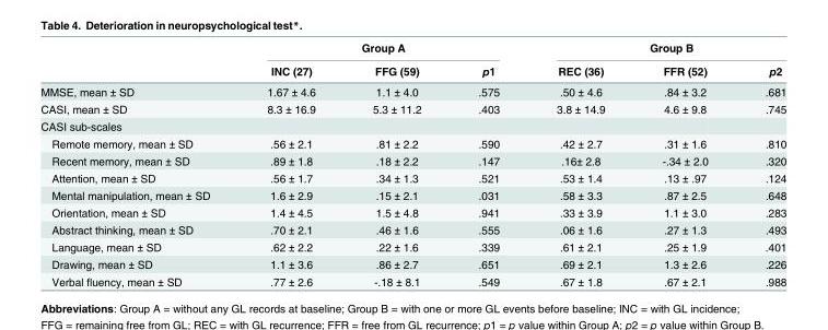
<table><thead><tr><td rowspan="2"></td><td colspan="3">Group A</td><td colspan="3">Group B</td></tr><tr><td>INC (27)</td><td>FFG (59)</td><td>p1</td><td>REC (36)</td><td>FFR (52)</td><td>p2</td></tr></thead><tbody><tr><td>MMSE, mean ± SD</td><td>1.67 ± 4.6</td><td>1.1 ± 4.0</td><td>.575</td><td>.50 ± 4.6</td><td>.84 ± 3.2</td><td>.681</td></tr><tr><td>CASI, mean ± SD</td><td>8.3 ± 16.9</td><td>5.3 ± 11.2</td><td>.403</td><td>3.8 ± 14.9</td><td>4.6 ± 9.8</td><td>.745</td></tr><tr><td colspan="7">CASI sub-scales</td></tr><tr><td>Remote memory, mean ± SD</td><td>.56 ± 2.1</td><td>.81 ± 2.2</td><td>.590</td><td>.42 ± 2.7</td><td>.31 ± 1.6</td><td>.810</td></tr><tr><td>Recent memory, mean ± SD</td><td>.89 ± 1.8</td><td>.18 ± 2.2</td><td>.147</td><td>.16± 2.8</td><td>-.34 ± 2.0</td><td>.320</td></tr><tr><td>Attention, mean ± SD</td><td>.56 ± 1.7</td><td>.34 ± 1.3</td><td>.521</td><td>.53 ± 1.4</td><td>.13 ± .97</td><td>.124</td></tr><tr><td>Mental manipulation, mean ± SD</td><td>1.6 ± 2.9</td><td>.15 ± 2.1</td><td>.031</td><td>.58 ± 3.3</td><td>.87 ± 2.5</td><td>.648</td></tr><tr><td>Orientation, mean ± SD</td><td>1.4 ± 4.5</td><td>1.5 ± 4.8</td><td>.941</td><td>.33 ± 3.9</td><td>1.1 ± 3.0</td><td>.283</td></tr><tr><td>Abstract thinking, mean ± SD</td><td>.70 ± 2.1</td><td>.46 ± 1.6</td><td>.555</td><td>.06 ± 1.6</td><td>.27 ± 1.3</td><td>.493</td></tr><tr><td>Language, mean ± SD</td><td>.62 ± 2.2</td><td>.22 ± 1.6</td><td>.339</td><td>.61 ± 2.1</td><td>.25 ± 1.9</td><td>.401</td></tr><tr><td>Drawing, mean ± SD</td><td>1.1 ± 3.6</td><td>.86 ± 2.7</td><td>.651</td><td>.69 ± 2.1</td><td>1.3 ± 2.6</td><td>.226</td></tr><tr><td>Verbal fluency, mean ± SD</td><td>.77 ± 2.6</td><td>-.18 ± 8.1</td><td>.549</td><td>.67 ± 1.8</td><td>.67 ± 2.1</td><td>.988</td></tr></tbody></table>